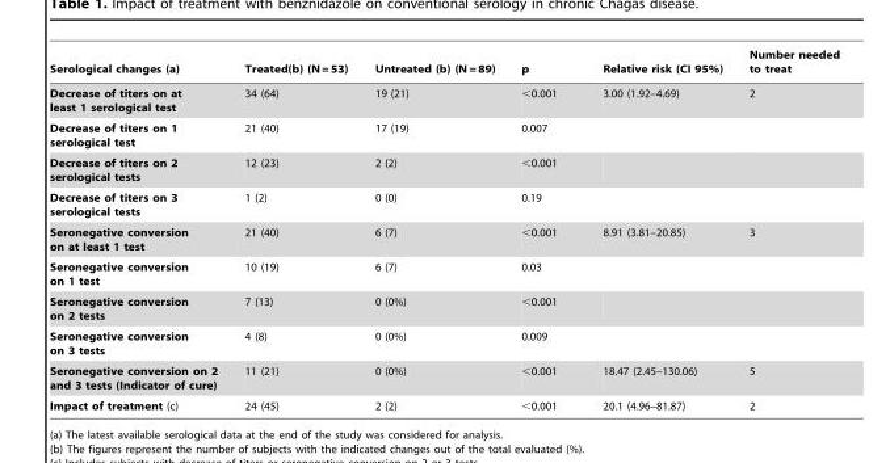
<table><thead><tr><td>Serological changes (a)</td><td>Treated(b) (N = 53)</td><td>Untreated (b) (N = 89)</td><td>p</td><td>Relative risk (CI 95%)</td><td>Number needed to treat</td></tr></thead><tbody><tr><td>Decrease of titers on at least 1 serological test</td><td>34 (64)</td><td>19 (21)</td><td>&lt;0.001</td><td>3.00 (1.92–4.69)</td><td>2</td></tr><tr><td>Decrease of titers on 1 serological test</td><td>21 (40)</td><td>17 (19)</td><td>0.007</td><td></td><td></td></tr><tr><td>Decrease of titers on 2 serological tests</td><td>12 (23)</td><td>2 (2)</td><td>&lt;0.001</td><td></td><td></td></tr><tr><td>Decrease of titers on 3 serological tests</td><td>1 (2)</td><td>0 (0)</td><td>0.19</td><td></td><td></td></tr><tr><td>Seronegative conversion on at least 1 test</td><td>21 (40)</td><td>6 (7)</td><td>&lt;0.001</td><td>8.91 (3.81–20.85)</td><td>3</td></tr><tr><td>Seronegative conversion on 1 test</td><td>10 (19)</td><td>6 (7)</td><td>0.03</td><td></td><td></td></tr><tr><td>Seronegative conversion on 2 tests</td><td>7 (13)</td><td>0 (0%)</td><td>&lt;0.001</td><td></td><td></td></tr><tr><td>Seronegative conversion on 3 tests</td><td>4 (8)</td><td>0 (0%)</td><td>0.009</td><td></td><td></td></tr><tr><td>Seronegative conversion on 2 and 3 tests (Indicator of cure)</td><td>11 (21)</td><td>0 (0%)</td><td>&lt;0.001</td><td>18.47 (2.45–130.06)</td><td>5</td></tr><tr><td>Impact of treatment (c)</td><td>24 (45)</td><td>2 (2)</td><td>&lt;0.001</td><td>20.1 (4.96–81.87)</td><td>2</td></tr></tbody></table>